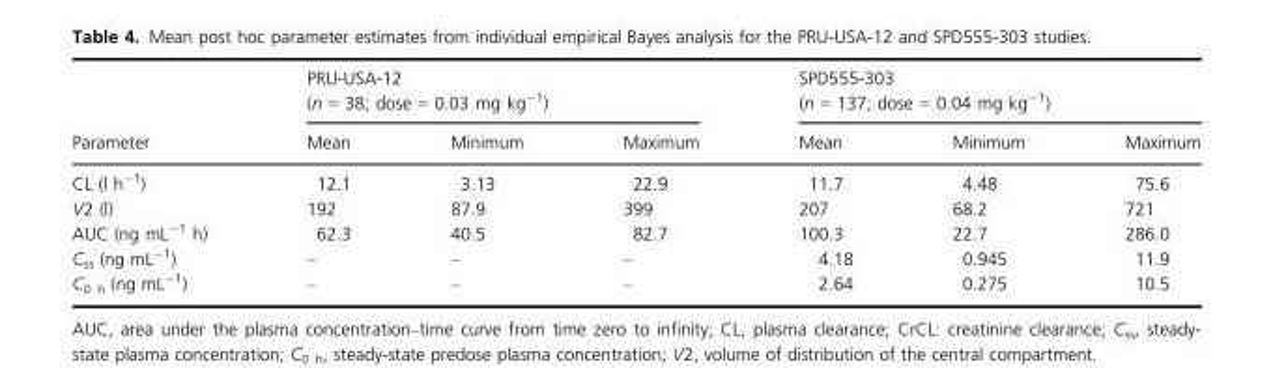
<table><thead><tr><td rowspan="3">Parameter</td><td rowspan="2" colspan="3">PRU-USA-12 (n = 38; dose = 0.03 mg kg<sup>−1</sup>)</td><td rowspan="2" colspan="3">SPD555-303 (n = 137; dose = 0.04 mg kg<sup>−1</sup>)</td></tr><tr></tr><tr><td>Mean</td><td>Minimum</td><td>Maximum</td><td>Mean</td><td>Minimum</td><td>Maximum</td></tr></thead><tbody><tr><td>CL (l h<sup>−1</sup>)</td><td>12.1</td><td>3.13</td><td>22.9</td><td>11.7</td><td>4.48</td><td>75.6</td></tr><tr><td>V2 (l)</td><td>192</td><td>87.9</td><td>399</td><td>207</td><td>68.2</td><td>721</td></tr><tr><td>AUC (ng mL<sup>−1</sup> h)</td><td>62.3</td><td>40.5</td><td>82.7</td><td>100.3</td><td>22.7</td><td>286.0</td></tr><tr><td>C<sub>ss</sub> (ng mL<sup>−1</sup>)</td><td>–</td><td>–</td><td>–</td><td>4.18</td><td>0.945</td><td>11.9</td></tr><tr><td>C<sub>0 h</sub> (ng mL<sup>−1</sup>)</td><td>–</td><td>–</td><td>–</td><td>2.64</td><td>0.275</td><td>10.5</td></tr></tbody></table>